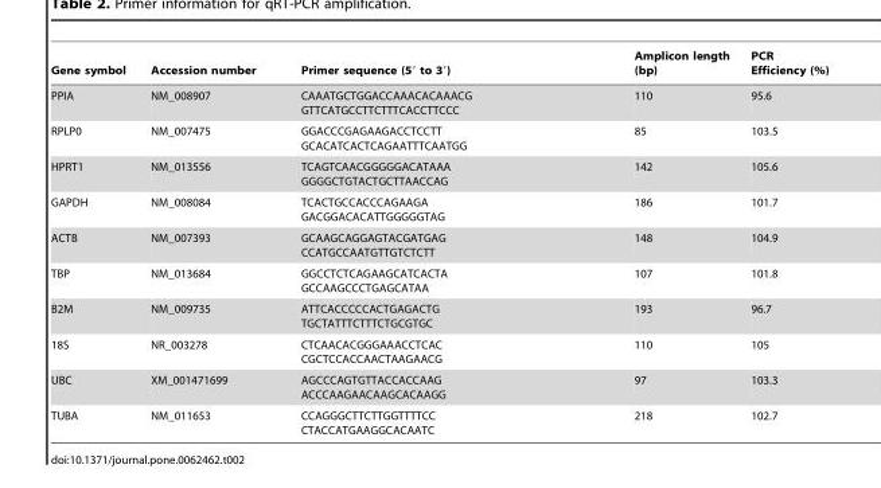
<table><thead><tr><td>Gene symbol</td><td>Accession number</td><td>Primer sequence (5′ to 3′)</td><td>Amplicon length (bp)</td><td>PCR Efficiency (%)</td></tr></thead><tbody><tr><td>PPIA</td><td>NM_008907</td><td>CAAATGCTGGACCAAACACAAACG GTTCATGCCTTCTTTCACCTTCCC</td><td>110</td><td>95.6</td></tr><tr><td>RPLP0</td><td>NM_007475</td><td>GGACCCGAGAAGACCTCCTT GCACATCACTCAGAATTTCAATGG</td><td>85</td><td>103.5</td></tr><tr><td>HPRT1</td><td>NM_013556</td><td>TCAGTCAACGGGGGACATAAA GGGGCTGTACTGCTTAACCAG</td><td>142</td><td>105.6</td></tr><tr><td>GAPDH</td><td>NM_008084</td><td>TCACTGCCACCCAGAAGA GACGGACACATTGGGGGTAG</td><td>186</td><td>101.7</td></tr><tr><td>ACTB</td><td>NM_007393</td><td>GCAAGCAGGAGTACGATGAG CCATGCCAATGTTGTCTCTT</td><td>148</td><td>104.9</td></tr><tr><td>TBP</td><td>NM_013684</td><td>GGCCTCTCAGAAGCATCACTA GCCAAGCCCTGAGCATAA</td><td>107</td><td>101.8</td></tr><tr><td>B2M</td><td>NM_009735</td><td>ATTCACCCCCACTGAGACTG TGCTATTTCTTTCTGCGTGC</td><td>193</td><td>96.7</td></tr><tr><td>18S</td><td>NR_003278</td><td>CTCAACACGGGAAACCTCAC CGCTCCACCAACTAAGAACG</td><td>110</td><td>105</td></tr><tr><td>UBC</td><td>XM_001471699</td><td>AGCCCAGTGTTACCACCAAG ACCCAAGAACAAGCACAAGG</td><td>97</td><td>103.3</td></tr><tr><td>TUBA</td><td>NM_011653</td><td>CCAGGGCTTCTTGGTTTTCC CTACCATGAAGGCACAATC</td><td>218</td><td>102.7</td></tr></tbody></table>